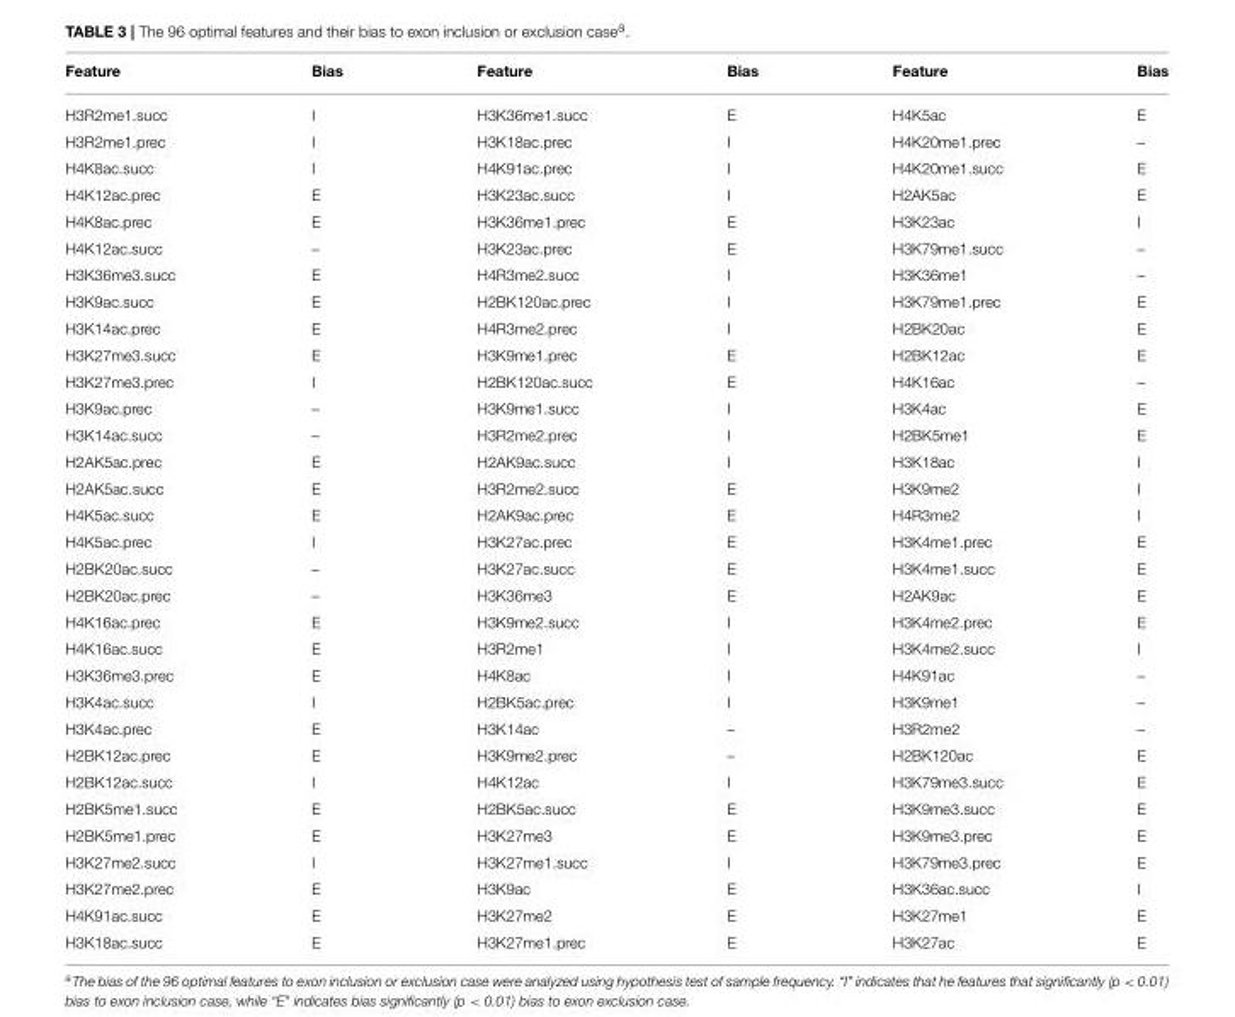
<table><thead><tr><td>Feature</td><td>Bias</td><td>Feature</td><td>Bias</td><td>Feature</td><td>Bias</td></tr></thead><tbody><tr><td>H3R2me1.succ</td><td>I</td><td>H3K36me1.succ</td><td>E</td><td>H4K5ac</td><td>E</td></tr><tr><td>H3R2me1.prec</td><td>I</td><td>H3K18ac.prec</td><td>I</td><td>H4K20me1.prec</td><td>–</td></tr><tr><td>H4K8ac.succ</td><td>I</td><td>H4K91ac.prec</td><td>I</td><td>H4K20me1.succ</td><td>E</td></tr><tr><td>H4K12ac.prec</td><td>E</td><td>H3K23ac.succ</td><td>I</td><td>H2AK5ac</td><td>E</td></tr><tr><td>H4K8ac.prec</td><td>E</td><td>H3K36me1.prec</td><td>E</td><td>H3K23ac</td><td>I</td></tr><tr><td>H4K12ac.succ</td><td>–</td><td>H3K23ac.prec</td><td>E</td><td>H3K79me1.succ</td><td>–</td></tr><tr><td>H3K36me3.succ</td><td>E</td><td>H4R3me2.succ</td><td>I</td><td>H3K36me1</td><td>–</td></tr><tr><td>H3K9ac.succ</td><td>E</td><td>H2BK120ac.prec</td><td>I</td><td>H3K79me1.prec</td><td>E</td></tr><tr><td>H3K14ac.prec</td><td>E</td><td>H4R3me2.prec</td><td>I</td><td>H2BK20ac</td><td>E</td></tr><tr><td>H3K27me3.succ</td><td>E</td><td>H3K9me1.prec</td><td>E</td><td>H2BK12ac</td><td>E</td></tr><tr><td>H3K27me3.prec</td><td>I</td><td>H2BK120ac.succ</td><td>E</td><td>H4K16ac</td><td>–</td></tr><tr><td>H3K9ac.prec</td><td>–</td><td>H3K9me1.succ</td><td>I</td><td>H3K4ac</td><td>E</td></tr><tr><td>H3K14ac.succ</td><td>–</td><td>H3R2me2.prec</td><td>I</td><td>H2BK5me1</td><td>E</td></tr><tr><td>H2AK5ac.prec</td><td>E</td><td>H2AK9ac.succ</td><td>I</td><td>H3K18ac</td><td>I</td></tr><tr><td>H2AK5ac.succ</td><td>E</td><td>H3R2me2.succ</td><td>E</td><td>H3K9me2</td><td>I</td></tr><tr><td>H4K5ac.succ</td><td>E</td><td>H2AK9ac.prec</td><td>E</td><td>H4R3me2</td><td>I</td></tr><tr><td>H4K5ac.prec</td><td>I</td><td>H3K27ac.prec</td><td>E</td><td>H3K4me1.prec</td><td>E</td></tr><tr><td>H2BK20ac.succ</td><td>–</td><td>H3K27ac.succ</td><td>E</td><td>H3K4me1.succ</td><td>E</td></tr><tr><td>H2BK20ac.prec</td><td>–</td><td>H3K36me3</td><td>E</td><td>H2AK9ac</td><td>E</td></tr><tr><td>H4K16ac.prec</td><td>E</td><td>H3K9me2.succ</td><td>I</td><td>H3K4me2.prec</td><td>E</td></tr><tr><td>H4K16ac.succ</td><td>E</td><td>H3R2me1</td><td>I</td><td>H3K4me2.succ</td><td>I</td></tr><tr><td>H3K36me3.prec</td><td>E</td><td>H4K8ac</td><td>I</td><td>H4K91ac</td><td>–</td></tr><tr><td>H3K4ac.succ</td><td>I</td><td>H2BK5ac.prec</td><td>I</td><td>H3K9me1</td><td>–</td></tr><tr><td>H3K4ac.prec</td><td>E</td><td>H3K14ac</td><td>–</td><td>H3R2me2</td><td>–</td></tr><tr><td>H2BK12ac.prec</td><td>E</td><td>H3K9me2.prec</td><td>–</td><td>H2BK120ac</td><td>E</td></tr><tr><td>H2BK12ac.succ</td><td>I</td><td>H4K12ac</td><td>I</td><td>H3K79me3.succ</td><td>E</td></tr><tr><td>H2BK5me1.succ</td><td>E</td><td>H2BK5ac.succ</td><td>E</td><td>H3K9me3.succ</td><td>E</td></tr><tr><td>H2BK5me1.prec</td><td>E</td><td>H3K27me3</td><td>E</td><td>H3K9me3.prec</td><td>E</td></tr><tr><td>H3K27me2.succ</td><td>I</td><td>H3K27me1.succ</td><td>I</td><td>H3K79me3.prec</td><td>E</td></tr><tr><td>H3K27me2.prec</td><td>E</td><td>H3K9ac</td><td>E</td><td>H3K36ac.succ</td><td>I</td></tr><tr><td>H4K91ac.succ</td><td>E</td><td>H3K27me2</td><td>E</td><td>H3K27me1</td><td>E</td></tr><tr><td>H3K18ac.succ</td><td>E</td><td>H3K27me1.prec</td><td>E</td><td>H3K27ac</td><td>E</td></tr></tbody></table>